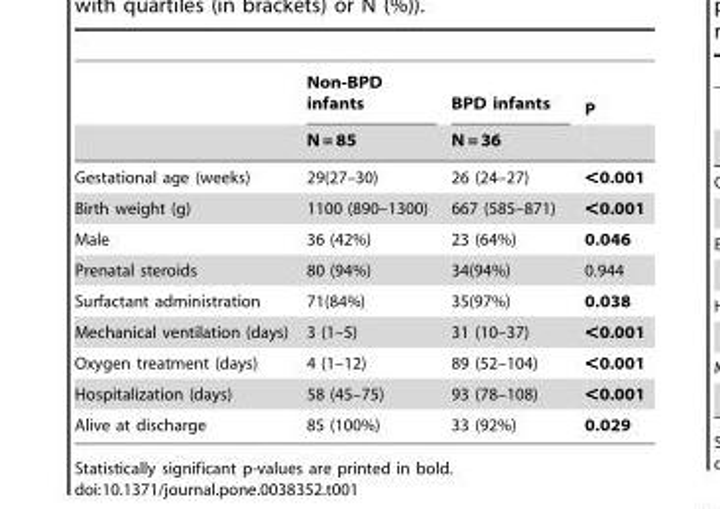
<table><thead><tr><td rowspan="2"></td><td rowspan="2">Non-BPD infants N = 85</td><td rowspan="2">BPD infants N = 36</td><td rowspan="2">P</td></tr><tr></tr></thead><tbody><tr><td>Gestational age (weeks)</td><td>29(27–30)</td><td>26 (24–27)</td><td>&lt;0.001</td></tr><tr><td>Birth weight (g)</td><td>1100 (890–1300)</td><td>667 (585–871)</td><td>&lt;0.001</td></tr><tr><td>Male</td><td>36 (42%)</td><td>23 (64%)</td><td>0.046</td></tr><tr><td>Prenatal steroids</td><td>80 (94%)</td><td>34(94%)</td><td>0.944</td></tr><tr><td>Surfactant administration</td><td>71(84%)</td><td>35(97%)</td><td>0.038</td></tr><tr><td>Mechanical ventilation (days)</td><td>3 (1–5)</td><td>31 (10–37)</td><td>&lt;0.001</td></tr><tr><td>Oxygen treatment (days)</td><td>4 (1–12)</td><td>89 (52–104)</td><td>&lt;0.001</td></tr><tr><td>Hospitalization (days)</td><td>58 (45–75)</td><td>93 (78–108)</td><td>&lt;0.001</td></tr><tr><td>Alive at discharge</td><td>85 (100%)</td><td>33 (92%)</td><td>0.029</td></tr></tbody></table>